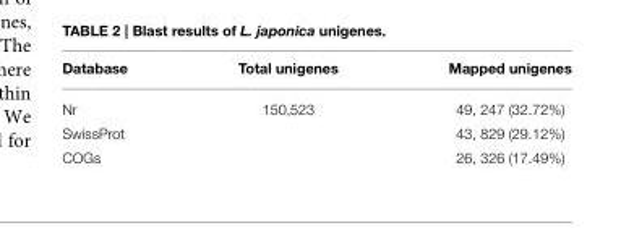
<table><thead><tr><td>Database</td><td>Total unigenes</td><td>Mapped unigenes</td></tr></thead><tbody><tr><td>Nr</td><td>150,523</td><td>49, 247 (32.72%)</td></tr><tr><td>SwissProt</td><td></td><td>43, 829 (29.12%)</td></tr><tr><td>COGs</td><td></td><td>26, 326 (17.49%)</td></tr></tbody></table>